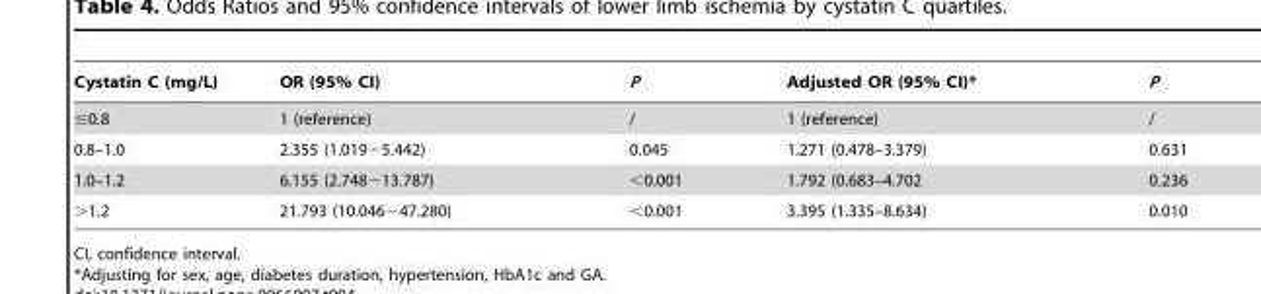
<table><thead><tr><td>Cystatin C (mg/L)</td><td>OR (95% CI)</td><td>P</td><td>Adjusted OR (95% CI)*</td><td>P</td></tr></thead><tbody><tr><td>≤0.8</td><td>1 (reference)</td><td>/</td><td>1 (reference)</td><td>/</td></tr><tr><td>0.8–1.0</td><td>2.355 (1.019−5.442)</td><td>0.045</td><td>1.271 (0.478–3.379)</td><td>0.631</td></tr><tr><td>1.0–1.2</td><td>6.155 (2.748−13.787)</td><td>&lt;0.001</td><td>1.792 (0.683–4.702</td><td>0.236</td></tr><tr><td>&gt;1.2</td><td>21.793 (10.046−47.280)</td><td>&lt;0.001</td><td>3.395 (1.335–8.634)</td><td>0.010</td></tr></tbody></table>